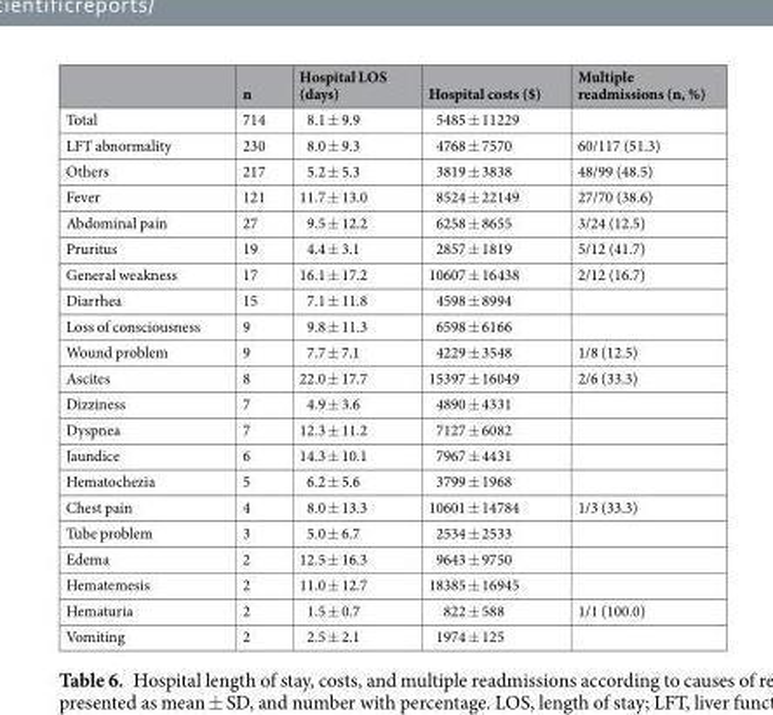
<table><thead><tr><td></td><td>n</td><td>Hospital LOS (days)</td><td>Hospital costs ($)</td><td>Multiple readmissions (n, %)</td></tr></thead><tbody><tr><td>Total</td><td>714</td><td>8.1 ± 9.9</td><td>5485 ± 11229</td><td></td></tr><tr><td>LFT abnormality</td><td>230</td><td>8.0 ± 9.3</td><td>4768 ± 7570</td><td>60/117 (51.3)</td></tr><tr><td>Others</td><td>217</td><td>5.2 ± 5.3</td><td>3819 ± 3838</td><td>48/99 (48.5)</td></tr><tr><td>Fever</td><td>121</td><td>11.7 ± 13.0</td><td>8524 ± 22149</td><td>27/70 (38.6)</td></tr><tr><td>Abdominal pain</td><td>27</td><td>9.5 ± 12.2</td><td>6258 ± 8655</td><td>3/24 (12.5)</td></tr><tr><td>Pruritus</td><td>19</td><td>4.4 ± 3.1</td><td>2857 ± 1819</td><td>5/12 (41.7)</td></tr><tr><td>General weakness</td><td>17</td><td>16.1 ± 17.2</td><td>10607 ± 16438</td><td>2/12 (16.7)</td></tr><tr><td>Diarrhea</td><td>15</td><td>7.1 ± 11.8</td><td>4598 ± 8994</td><td></td></tr><tr><td>Loss of consciousness</td><td>9</td><td>9.8 ± 11.3</td><td>6598 ± 6166</td><td></td></tr><tr><td>Wound problem</td><td>9</td><td>7.7 ± 7.1</td><td>4229 ± 3548</td><td>1/8 (12.5)</td></tr><tr><td>Ascites</td><td>8</td><td>22.0 ± 17.7</td><td>15397 ± 16049</td><td>2/6 (33.3)</td></tr><tr><td>Dizziness</td><td>7</td><td>4.9 ± 3.6</td><td>4890 ± 4331</td><td></td></tr><tr><td>Dyspnea</td><td>7</td><td>12.3 ± 11.2</td><td>7127 ± 6082</td><td></td></tr><tr><td>Jaundice</td><td>6</td><td>14.3 ± 10.1</td><td>7967 ± 4431</td><td></td></tr><tr><td>Hematochezia</td><td>5</td><td>6.2 ± 5.6</td><td>3799 ± 1968</td><td></td></tr><tr><td>Chest pain</td><td>4</td><td>8.0 ± 13.3</td><td>10601 ± 14784</td><td>1/3 (33.3)</td></tr><tr><td>Tube problem</td><td>3</td><td>5.0 ± 6.7</td><td>2534 ± 2533</td><td></td></tr><tr><td>Edema</td><td>2</td><td>12.5 ± 16.3</td><td>9643 ± 9750</td><td></td></tr><tr><td>Hematemesis</td><td>2</td><td>11.0 ± 12.7</td><td>18385 ± 16945</td><td></td></tr><tr><td>Hematuria</td><td>2</td><td>1.5 ± 0.7</td><td>822 ± 588</td><td>1/1 (100.0)</td></tr><tr><td>Vomiting</td><td>2</td><td>2.5 ± 2.1</td><td>1974 ± 125</td><td></td></tr></tbody></table>